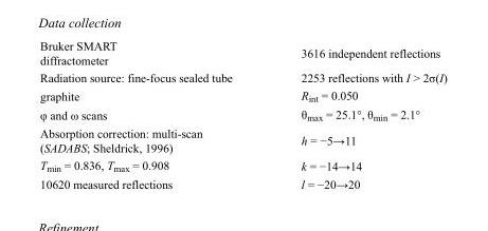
<table><tbody><tr><td>Bruker SMART diffractometer</td><td>3616 independent reflections</td></tr><tr><td>Radiation source: fine-focus sealed tube</td><td>2253 reflections with I &gt; 2σ(I)</td></tr><tr><td>graphite</td><td>R<sub>int</sub> = 0.050</td></tr><tr><td>φ and ω scans</td><td>θ<sub>max</sub> = 25.1°, θ<sub>min</sub> = 2.1°</td></tr><tr><td>Absorption correction: multi-scan (SADABS; Sheldrick, 1996)</td><td>h = −5→11</td></tr><tr><td>T<sub>min</sub> = 0.836, T<sub>max</sub> = 0.908</td><td>k = −14→14</td></tr><tr><td>10620 measured reflections</td><td>l = −20→20</td></tr></tbody></table>